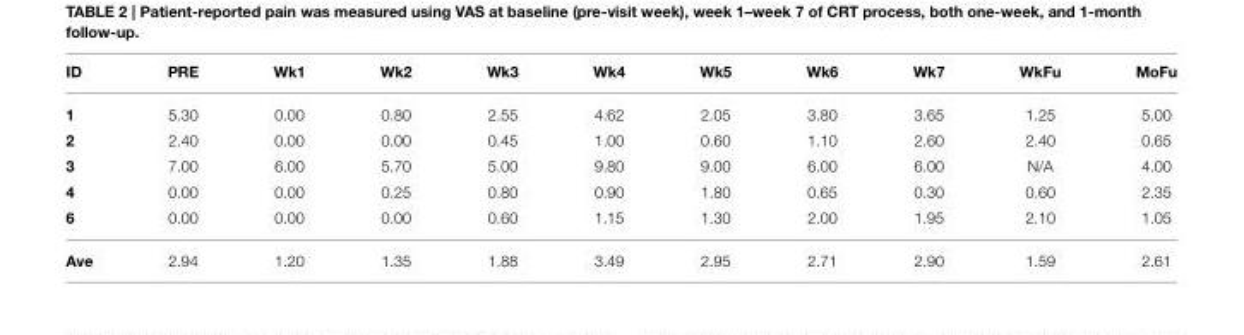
<table><thead><tr><td>ID</td><td>PRE</td><td>Wk1</td><td>Wk2</td><td>Wk3</td><td>Wk4</td><td>Wk5</td><td>Wk6</td><td>Wk7</td><td>WkFu</td><td>MoFu</td></tr></thead><tbody><tr><td>1</td><td>5.30</td><td>0.00</td><td>0.80</td><td>2.55</td><td>4.62</td><td>2.05</td><td>3.80</td><td>3.65</td><td>1.25</td><td>5.00</td></tr><tr><td>2</td><td>2.40</td><td>0.00</td><td>0.00</td><td>0.45</td><td>1.00</td><td>0.60</td><td>1.10</td><td>2.60</td><td>2.40</td><td>0.65</td></tr><tr><td>3</td><td>7.00</td><td>6.00</td><td>5.70</td><td>5.00</td><td>9.80</td><td>9.00</td><td>6.00</td><td>6.00</td><td>N/A</td><td>4.00</td></tr><tr><td>4</td><td>0.00</td><td>0.00</td><td>0.25</td><td>0.80</td><td>0.90</td><td>1.80</td><td>0.65</td><td>0.30</td><td>0.60</td><td>2.35</td></tr><tr><td>6</td><td>0.00</td><td>0.00</td><td>0.00</td><td>0.60</td><td>1.15</td><td>1.30</td><td>2.00</td><td>1.95</td><td>2.10</td><td>1.05</td></tr><tr><td>Ave</td><td>2.94</td><td>1.20</td><td>1.35</td><td>1.88</td><td>3.49</td><td>2.95</td><td>2.71</td><td>2.90</td><td>1.59</td><td>2.61</td></tr></tbody></table>